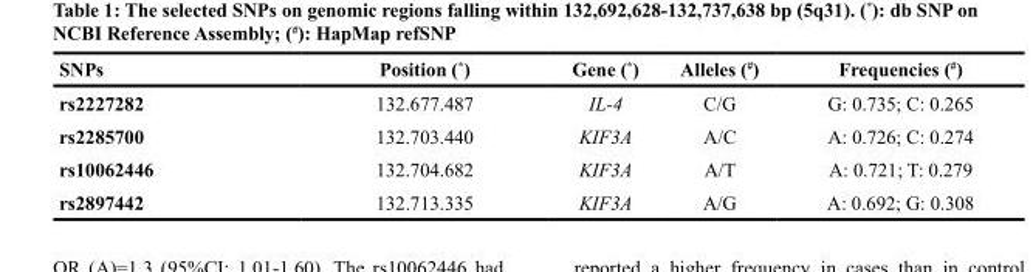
<table><thead><tr><td>SNPs</td><td>Position (*)</td><td>Gene (*)</td><td>Alleles (<sup>#</sup>)</td><td>Frequencies (<sup>#</sup>)</td></tr></thead><tbody><tr><td>rs2227282</td><td>132.677.487</td><td>IL-4</td><td>C/G</td><td>G: 0.735; C: 0.265</td></tr><tr><td>rs2285700</td><td>132.703.440</td><td>KIF3A</td><td>A/C</td><td>A: 0.726; C: 0.274</td></tr><tr><td>rs10062446</td><td>132.704.682</td><td>KIF3A</td><td>A/T</td><td>A: 0.721; T: 0.279</td></tr><tr><td>rs2897442</td><td>132.713.335</td><td>KIF3A</td><td>A/G</td><td>A: 0.692; G: 0.308</td></tr></tbody></table>